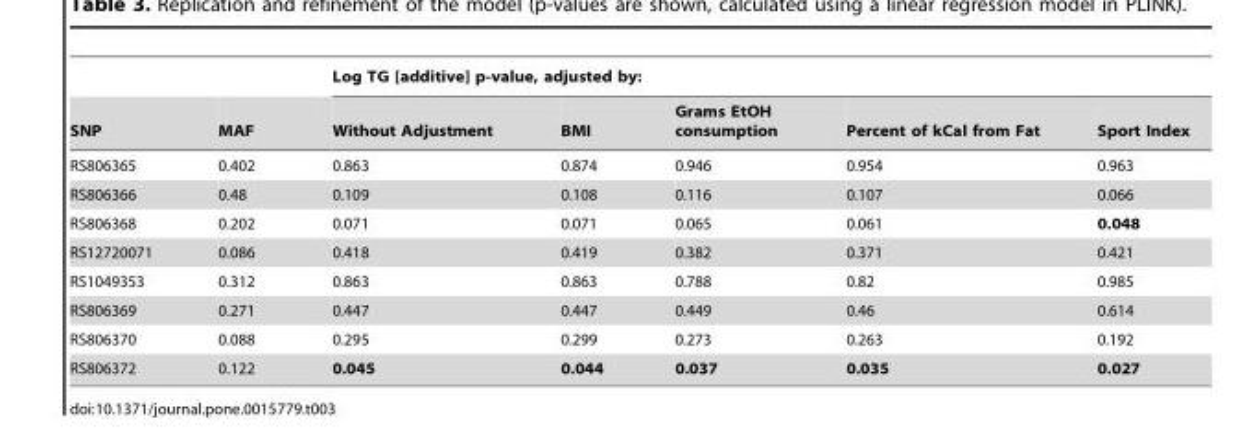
<table><thead><tr><td rowspan="2">SNP</td><td rowspan="2">MAF</td><td colspan="5">Log TG [additive] p-value, adjusted by:</td></tr><tr><td>Without Adjustment</td><td>BMI</td><td>Grams EtOH consumption</td><td>Percent of kCal from Fat</td><td>Sport Index</td></tr></thead><tbody><tr><td>RS806365</td><td>0.402</td><td>0.863</td><td>0.874</td><td>0.946</td><td>0.954</td><td>0.963</td></tr><tr><td>RS806366</td><td>0.48</td><td>0.109</td><td>0.108</td><td>0.116</td><td>0.107</td><td>0.066</td></tr><tr><td>RS806368</td><td>0.202</td><td>0.071</td><td>0.071</td><td>0.065</td><td>0.061</td><td>0.048</td></tr><tr><td>RS12720071</td><td>0.086</td><td>0.418</td><td>0.419</td><td>0.382</td><td>0.371</td><td>0.421</td></tr><tr><td>RS1049353</td><td>0.312</td><td>0.863</td><td>0.863</td><td>0.788</td><td>0.82</td><td>0.985</td></tr><tr><td>RS806369</td><td>0.271</td><td>0.447</td><td>0.447</td><td>0.449</td><td>0.46</td><td>0.614</td></tr><tr><td>RS806370</td><td>0.088</td><td>0.295</td><td>0.299</td><td>0.273</td><td>0.263</td><td>0.192</td></tr><tr><td>RS806372</td><td>0.122</td><td>0.045</td><td>0.044</td><td>0.037</td><td>0.035</td><td>0.027</td></tr></tbody></table>